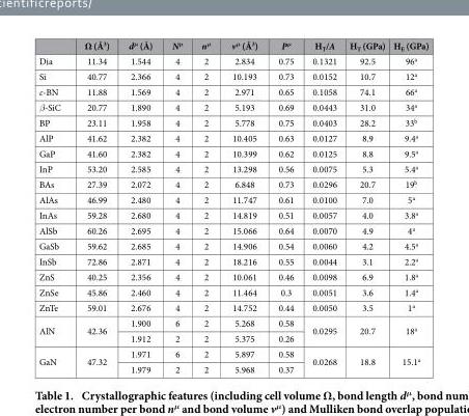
<table><thead><tr><td></td><td>Ω (Å<sup>3</sup>)</td><td>d<sup>μ</sup> (Å)</td><td>N<sup>μ</sup></td><td>n<sup>μ</sup></td><td>v<sup>μ</sup> (Å<sup>3</sup>)</td><td>P<sup>μ</sup></td><td>H<sub>T</sub>/A</td><td>H<sub>T</sub> (GPa)</td><td>H<sub>E</sub> (GPa)</td></tr></thead><tbody><tr><td>Dia</td><td>11.34</td><td>1.544</td><td>4</td><td>2</td><td>2.834</td><td>0.75</td><td>0.1321</td><td>92.5</td><td>96<sup>a</sup></td></tr><tr><td>Si</td><td>40.77</td><td>2.366</td><td>4</td><td>2</td><td>10.193</td><td>0.73</td><td>0.0152</td><td>10.7</td><td>12<sup>a</sup></td></tr><tr><td>c-BN</td><td>11.88</td><td>1.569</td><td>4</td><td>2</td><td>2.971</td><td>0.65</td><td>0.1058</td><td>74.1</td><td>66<sup>a</sup></td></tr><tr><td>β-SiC</td><td>20.77</td><td>1.890</td><td>4</td><td>2</td><td>5.193</td><td>0.69</td><td>0.0443</td><td>31.0</td><td>34<sup>a</sup></td></tr><tr><td>BP</td><td>23.11</td><td>1.958</td><td>4</td><td>2</td><td>5.778</td><td>0.75</td><td>0.0403</td><td>28.2</td><td>33<sup>b</sup></td></tr><tr><td>AlP</td><td>41.62</td><td>2.382</td><td>4</td><td>2</td><td>10.405</td><td>0.63</td><td>0.0127</td><td>8.9</td><td>9.4<sup>a</sup></td></tr><tr><td>GaP</td><td>41.60</td><td>2.382</td><td>4</td><td>2</td><td>10.399</td><td>0.62</td><td>0.0125</td><td>8.8</td><td>9.5<sup>a</sup></td></tr><tr><td>InP</td><td>53.20</td><td>2.585</td><td>4</td><td>2</td><td>13.298</td><td>0.56</td><td>0.0075</td><td>5.3</td><td>5.4<sup>a</sup></td></tr><tr><td>BAs</td><td>27.39</td><td>2.072</td><td>4</td><td>2</td><td>6.848</td><td>0.73</td><td>0.0296</td><td>20.7</td><td>19<sup>b</sup></td></tr><tr><td>AlAs</td><td>46.99</td><td>2.480</td><td>4</td><td>2</td><td>11.747</td><td>0.61</td><td>0.0100</td><td>7.0</td><td>5<sup>a</sup></td></tr><tr><td>InAs</td><td>59.28</td><td>2.680</td><td>4</td><td>2</td><td>14.819</td><td>0.51</td><td>0.0057</td><td>4.0</td><td>3.8<sup>a</sup></td></tr><tr><td>AlSb</td><td>60.26</td><td>2.695</td><td>4</td><td>2</td><td>15.066</td><td>0.64</td><td>0.0070</td><td>4.9</td><td>4<sup>a</sup></td></tr><tr><td>GaSb</td><td>59.62</td><td>2.685</td><td>4</td><td>2</td><td>14.906</td><td>0.54</td><td>0.0060</td><td>4.2</td><td>4.5<sup>a</sup></td></tr><tr><td>InSb</td><td>72.86</td><td>2.871</td><td>4</td><td>2</td><td>18.216</td><td>0.55</td><td>0.0044</td><td>3.1</td><td>2.2<sup>a</sup></td></tr><tr><td>ZnS</td><td>40.25</td><td>2.356</td><td>4</td><td>2</td><td>10.061</td><td>0.46</td><td>0.0098</td><td>6.9</td><td>1.8<sup>a</sup></td></tr><tr><td>ZnSe</td><td>45.86</td><td>2.460</td><td>4</td><td>2</td><td>11.464</td><td>0.3</td><td>0.0051</td><td>3.6</td><td>1.4<sup>a</sup></td></tr><tr><td>ZnTe</td><td>59.01</td><td>2.676</td><td>4</td><td>2</td><td>14.752</td><td>0.44</td><td>0.0050</td><td>3.5</td><td>1<sup>a</sup></td></tr><tr><td rowspan="2">AlN</td><td rowspan="2">42.36</td><td>1.900</td><td>6</td><td>2</td><td>5.268</td><td>0.58</td><td rowspan="2">0.0295</td><td rowspan="2">20.7</td><td rowspan="2">18<sup>a</sup></td></tr><tr><td>1.912</td><td>2</td><td>2</td><td>5.375</td><td>0.26</td></tr><tr><td rowspan="2">GaN</td><td rowspan="2">47.32</td><td>1.971</td><td>6</td><td>2</td><td>5.897</td><td>0.58</td><td rowspan="2">0.0268</td><td rowspan="2">18.8</td><td rowspan="2">15.1<sup>a</sup></td></tr><tr><td>1.979</td><td>2</td><td>2</td><td>5.968</td><td>0.37</td></tr></tbody></table>